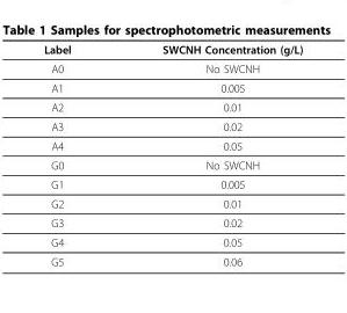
<table><thead><tr><td>Label</td><td>SWCNH Concentration (g/L)</td></tr></thead><tbody><tr><td>A0</td><td>No SWCNH</td></tr><tr><td>A1</td><td>0.005</td></tr><tr><td>A2</td><td>0.01</td></tr><tr><td>A3</td><td>0.02</td></tr><tr><td>A4</td><td>0.05</td></tr><tr><td>G0</td><td>No SWCNH</td></tr><tr><td>G1</td><td>0.005</td></tr><tr><td>G2</td><td>0.01</td></tr><tr><td>G3</td><td>0.02</td></tr><tr><td>G4</td><td>0.05</td></tr><tr><td>G5</td><td>0.06</td></tr></tbody></table>